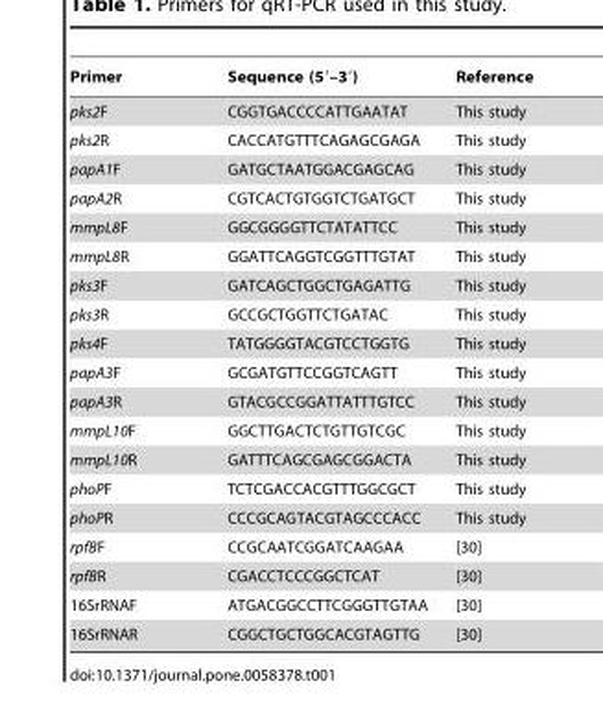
<table><thead><tr><td>Primer</td><td>Sequence (5′–3′)</td><td>Reference</td></tr></thead><tbody><tr><td>pks2F</td><td>CGGTGACCCCATTGAATAT</td><td>This study</td></tr><tr><td>pks2R</td><td>CACCATGTTTCAGAGCGAGA</td><td>This study</td></tr><tr><td>papA1F</td><td>GATGCTAATGGACGAGCAG</td><td>This study</td></tr><tr><td>papA2R</td><td>CGTCACTGTGGTCTGATGCT</td><td>This study</td></tr><tr><td>mmpL8F</td><td>GGCGGGGTTCTATATTCC</td><td>This study</td></tr><tr><td>mmpL8R</td><td>GGATTCAGGTCGGTTTGTAT</td><td>This study</td></tr><tr><td>pks3F</td><td>GATCAGCTGGCTGAGATTG</td><td>This study</td></tr><tr><td>pks3R</td><td>GCCGCTGGTTCTGATAC</td><td>This study</td></tr><tr><td>pks4F</td><td>TATGGGGTACGTCCTGGTG</td><td>This study</td></tr><tr><td>papA3F</td><td>GCGATGTTCCGGTCAGTT</td><td>This study</td></tr><tr><td>papA3R</td><td>GTACGCCGGATTATTTGTCC</td><td>This study</td></tr><tr><td>mmpL10F</td><td>GGCTTGACTCTGTTGTCGC</td><td>This study</td></tr><tr><td>mmpL10R</td><td>GATTTCAGCGAGCGGACTA</td><td>This study</td></tr><tr><td>phoPF</td><td>TCTCGACCACGTTTGGCGCT</td><td>This study</td></tr><tr><td>phoPR</td><td>CCCGCAGTACGTAGCCCACC</td><td>This study</td></tr><tr><td>rpfBF</td><td>CCGCAATCGGATCAAGAA</td><td>[30]</td></tr><tr><td>rpfBR</td><td>CGACCTCCCGGCTCAT</td><td>[30]</td></tr><tr><td>16SrRNAF</td><td>ATGACGGCCTTCGGGTTGTAA</td><td>[30]</td></tr><tr><td>16SrRNAR</td><td>CGGCTGCTGGCACGTAGTTG</td><td>[30]</td></tr></tbody></table>